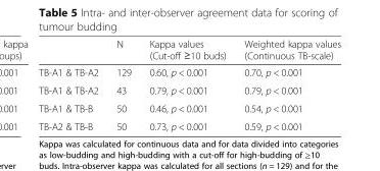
<table><thead><tr><td></td><td>N</td><td>Kappa values (Cut-off ≥10 buds)</td><td>Weighted kappa values (Continuous TB-scale)</td></tr></thead><tbody><tr><td>TB-A1 &amp; TB-A2</td><td>129</td><td>0.60, p &lt; 0.001</td><td>0.70, p &lt; 0.001</td></tr><tr><td>TB-A1 &amp; TB-A2</td><td>43</td><td>0.79, p &lt; 0.001</td><td>0.79, p &lt; 0.001</td></tr><tr><td>TB-A1 &amp; TB-B</td><td>50</td><td>0.46, p &lt; 0.001</td><td>0.54, p &lt; 0.001</td></tr><tr><td>TB-A2 &amp; TB-B</td><td>50</td><td>0.73, p &lt; 0.001</td><td>0.59, p &lt; 0.001</td></tr></tbody></table>